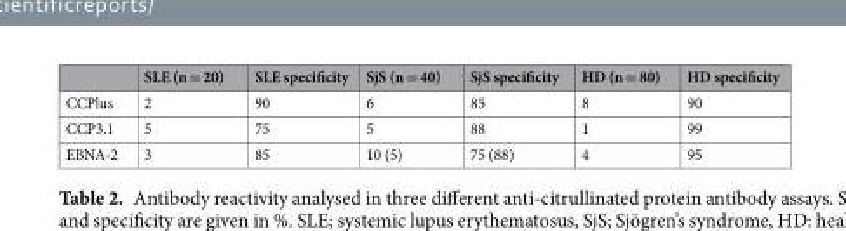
<table><thead><tr><td></td><td>SLE (n = 20)</td><td>SLE specificity</td><td>SjS (n = 40)</td><td>SjS specificity</td><td>HD (n = 80)</td><td>HD specificity</td></tr></thead><tbody><tr><td>CCPlus</td><td>2</td><td>90</td><td>6</td><td>85</td><td>8</td><td>90</td></tr><tr><td>CCP3.1</td><td>5</td><td>75</td><td>5</td><td>88</td><td>1</td><td>99</td></tr><tr><td>EBNA-2</td><td>3</td><td>85</td><td>10 (5)</td><td>75 (88)</td><td>4</td><td>95</td></tr></tbody></table>